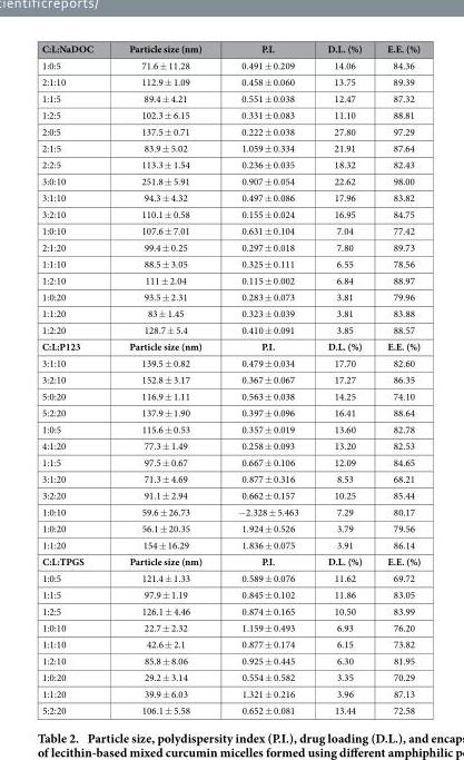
<table><thead><tr><td>C:L:NaDOC</td><td>Particle size (nm)</td><td>P.I.</td><td>D.L. (%)</td><td>E.E. (%)</td></tr></thead><tbody><tr><td>1:0:5</td><td>71.6 ± 11.28</td><td>0.491 ± 0.209</td><td>14.06</td><td>84.36</td></tr><tr><td>2:1:10</td><td>112.9 ± 1.09</td><td>0.458 ± 0.060</td><td>13.75</td><td>89.39</td></tr><tr><td>1:1:5</td><td>89.4 ± 4.21</td><td>0.551 ± 0.038</td><td>12.47</td><td>87.32</td></tr><tr><td>1:2:5</td><td>102.3 ± 6.15</td><td>0.331 ± 0.083</td><td>11.10</td><td>88.81</td></tr><tr><td>2:0:5</td><td>137.5 ± 0.71</td><td>0.222 ± 0.038</td><td>27.80</td><td>97.29</td></tr><tr><td>2:1:5</td><td>83.9 ± 5.02</td><td>1.059 ± 0.334</td><td>21.91</td><td>87.64</td></tr><tr><td>2:2:5</td><td>113.3 ± 1.54</td><td>0.236 ± 0.035</td><td>18.32</td><td>82.43</td></tr><tr><td>3:0:10</td><td>251.8 ± 5.91</td><td>0.907 ± 0.054</td><td>22.62</td><td>98.00</td></tr><tr><td>3:1:10</td><td>94.3 ± 4.32</td><td>0.497 ± 0.086</td><td>17.96</td><td>83.82</td></tr><tr><td>3:2:10</td><td>110.1 ± 0.58</td><td>0.155 ± 0.024</td><td>16.95</td><td>84.75</td></tr><tr><td>1:0:10</td><td>107.6 ± 7.01</td><td>0.631 ± 0.104</td><td>7.04</td><td>77.42</td></tr><tr><td>2:1:20</td><td>99.4 ± 0.25</td><td>0.297 ± 0.018</td><td>7.80</td><td>89.73</td></tr><tr><td>1:1:10</td><td>88.5 ± 3.05</td><td>0.325 ± 0.111</td><td>6.55</td><td>78.56</td></tr><tr><td>1:2:10</td><td>111 ± 2.04</td><td>0.115 ± 0.002</td><td>6.84</td><td>88.97</td></tr><tr><td>1:0:20</td><td>93.5 ± 2.31</td><td>0.283 ± 0.073</td><td>3.81</td><td>79.96</td></tr><tr><td>1:1:20</td><td>83 ± 1.45</td><td>0.323 ± 0.039</td><td>3.81</td><td>83.88</td></tr><tr><td>1:2:20</td><td>128.7 ± 5.4</td><td>0.410 ± 0.091</td><td>3.85</td><td>88.57</td></tr><tr><td>C:L:P123</td><td>Particle size (nm)</td><td>P.I.</td><td>D.L. (%)</td><td>E.E. (%)</td></tr><tr><td>3:1:10</td><td>139.5 ± 0.82</td><td>0.479 ± 0.034</td><td>17.70</td><td>82.60</td></tr><tr><td>3:2:10</td><td>152.8 ± 3.17</td><td>0.367 ± 0.067</td><td>17.27</td><td>86.35</td></tr><tr><td>5:0:20</td><td>116.9 ± 1.11</td><td>0.563 ± 0.038</td><td>14.25</td><td>74.10</td></tr><tr><td>5:2:20</td><td>137.9 ± 1.90</td><td>0.397 ± 0.096</td><td>16.41</td><td>88.64</td></tr><tr><td>1:0:5</td><td>115.6 ± 0.53</td><td>0.357 ± 0.019</td><td>13.60</td><td>82.78</td></tr><tr><td>4:1:20</td><td>77.3 ± 1.49</td><td>0.258 ± 0.093</td><td>13.20</td><td>82.53</td></tr><tr><td>1:1:5</td><td>97.5 ± 0.67</td><td>0.667 ± 0.106</td><td>12.09</td><td>84.65</td></tr><tr><td>3:1:20</td><td>71.3 ± 4.69</td><td>0.877 ± 0.316</td><td>8.53</td><td>68.21</td></tr><tr><td>3:2:20</td><td>91.1 ± 2.94</td><td>0.662 ± 0.157</td><td>10.25</td><td>85.44</td></tr><tr><td>1:0:10</td><td>59.6 ± 26.73</td><td>− 2.328 ± 5.463</td><td>7.29</td><td>80.17</td></tr><tr><td>1:0:20</td><td>56.1 ± 20.35</td><td>1.924 ± 0.526</td><td>3.79</td><td>79.56</td></tr><tr><td>1:1:20</td><td>154 ± 16.29</td><td>1.836 ± 0.075</td><td>3.91</td><td>86.14</td></tr><tr><td>C:L:TPGS</td><td>Particle size (nm)</td><td>P.I.</td><td>D.L. (%)</td><td>E.E. (%)</td></tr><tr><td>1:0:5</td><td>121.4 ± 1.33</td><td>0.589 ± 0.076</td><td>11.62</td><td>69.72</td></tr><tr><td>1:1:5</td><td>97.9 ± 1.19</td><td>0.845 ± 0.102</td><td>11.86</td><td>83.05</td></tr><tr><td>1:2:5</td><td>126.1 ± 4.46</td><td>0.874 ± 0.165</td><td>10.50</td><td>83.99</td></tr><tr><td>1:0:10</td><td>22.7 ± 2.32</td><td>1.159 ± 0.493</td><td>6.93</td><td>76.20</td></tr><tr><td>1:1:10</td><td>42.6 ± 2.1</td><td>0.877 ± 0.174</td><td>6.15</td><td>73.82</td></tr><tr><td>1:2:10</td><td>85.8 ± 8.06</td><td>0.925 ± 0.445</td><td>6.30</td><td>81.95</td></tr><tr><td>1:0:20</td><td>29.2 ± 3.14</td><td>0.554 ± 0.582</td><td>3.35</td><td>70.29</td></tr><tr><td>1:1:20</td><td>39.9 ± 6.03</td><td>1.321 ± 0.216</td><td>3.96</td><td>87.13</td></tr><tr><td>5:2:20</td><td>106.1 ± 5.58</td><td>0.652 ± 0.081</td><td>13.44</td><td>72.58</td></tr></tbody></table>